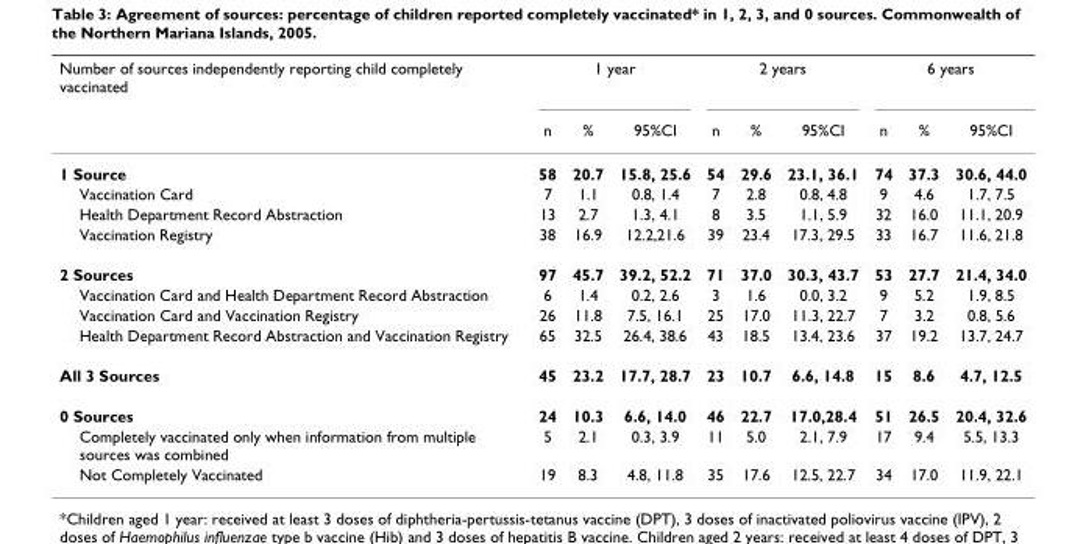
<table><thead><tr><td rowspan="2">Number of sources independently reporting child completely vaccinated</td><td colspan="3">1 year</td><td colspan="3">2 years</td><td colspan="3">6 years</td></tr><tr><td>n</td><td>%</td><td>95%CI</td><td>n</td><td>%</td><td>95%CI</td><td>n</td><td>%</td><td>95%CI</td></tr></thead><tbody><tr><td>1 Source</td><td>58</td><td>20.7</td><td>15.8, 25.6</td><td>54</td><td>29.6</td><td>23.1, 36.1</td><td>74</td><td>37.3</td><td>30.6, 44.0</td></tr><tr><td>Vaccination Card</td><td>7</td><td>1.1</td><td>0.8, 1.4</td><td>7</td><td>2.8</td><td>0.8, 4.8</td><td>9</td><td>4.6</td><td>1.7, 7.5</td></tr><tr><td>Health Department Record Abstraction</td><td>13</td><td>2.7</td><td>1.3, 4.1</td><td>8</td><td>3.5</td><td>1.1, 5.9</td><td>32</td><td>16.0</td><td>11.1, 20.9</td></tr><tr><td>Vaccination Registry</td><td>38</td><td>16.9</td><td>12.2,21.6</td><td>39</td><td>23.4</td><td>17.3, 29.5</td><td>33</td><td>16.7</td><td>11.6, 21.8</td></tr><tr><td>2 Sources</td><td>97</td><td>45.7</td><td>39.2, 52.2</td><td>71</td><td>37.0</td><td>30.3, 43.7</td><td>53</td><td>27.7</td><td>21.4, 34.0</td></tr><tr><td>Vaccination Card and Health Department Record Abstraction</td><td>6</td><td>1.4</td><td>0.2, 2.6</td><td>3</td><td>1.6</td><td>0.0, 3.2</td><td>9</td><td>5.2</td><td>1.9, 8.5</td></tr><tr><td>Vaccination Card and Vaccination Registry</td><td>26</td><td>11.8</td><td>7.5, 16.1</td><td>25</td><td>17.0</td><td>11.3, 22.7</td><td>7</td><td>3.2</td><td>0.8, 5.6</td></tr><tr><td>Health Department Record Abstraction and Vaccination Registry</td><td>65</td><td>32.5</td><td>26.4, 38.6</td><td>43</td><td>18.5</td><td>13.4, 23.6</td><td>37</td><td>19.2</td><td>13.7, 24.7</td></tr><tr><td>All 3 Sources</td><td>45</td><td>23.2</td><td>17.7, 28.7</td><td>23</td><td>10.7</td><td>6.6, 14.8</td><td>15</td><td>8.6</td><td>4.7, 12.5</td></tr><tr><td>0 Sources</td><td>24</td><td>10.3</td><td>6.6, 14.0</td><td>46</td><td>22.7</td><td>17.0,28.4</td><td>51</td><td>26.5</td><td>20.4, 32.6</td></tr><tr><td>Completely vaccinated only when information from multiple sources was combined</td><td>5</td><td>2.1</td><td>0.3, 3.9</td><td>11</td><td>5.0</td><td>2.1, 7.9</td><td>17</td><td>9.4</td><td>5.5, 13.3</td></tr><tr><td>Not Completely Vaccinated</td><td>19</td><td>8.3</td><td>4.8, 11.8</td><td>35</td><td>17.6</td><td>12.5, 22.7</td><td>34</td><td>17.0</td><td>11.9, 22.1</td></tr></tbody></table>